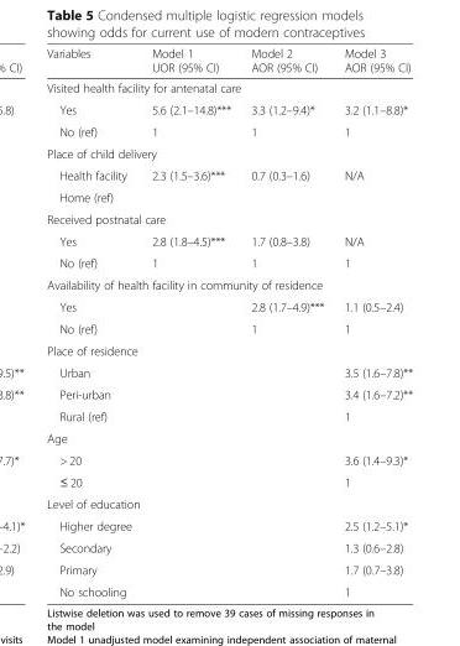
<table><thead><tr><td>Variables</td><td>Model 1 UOR (95% CI)</td><td>Model 2 AOR (95% CI)</td><td>Model 3 AOR (95% CI)</td></tr></thead><tbody><tr><td colspan="4">Visited health facility for antenatal care</td></tr><tr><td>Yes</td><td>5.6 (2.1–14.8)***</td><td>3.3 (1.2–9.4)*</td><td>3.2 (1.1–8.8)*</td></tr><tr><td>No (ref)</td><td>1</td><td>1</td><td>1</td></tr><tr><td colspan="4">Place of child delivery</td></tr><tr><td>Health facility</td><td>2.3 (1.5–3.6)***</td><td>0.7 (0.3–1.6)</td><td>N/A</td></tr><tr><td colspan="4">Home (ref)</td></tr><tr><td colspan="4">Received postnatal care</td></tr><tr><td>Yes</td><td>2.8 (1.8–4.5)***</td><td>1.7 (0.8–3.8)</td><td>N/A</td></tr><tr><td>No (ref)</td><td>1</td><td>1</td><td>1</td></tr><tr><td colspan="4">Availability of health facility in community of residence</td></tr><tr><td>Yes</td><td></td><td>2.8 (1.7–4.9)***</td><td>1.1 (0.5–2.4)</td></tr><tr><td>No (ref)</td><td></td><td>1</td><td>1</td></tr><tr><td colspan="4">Place of residence</td></tr><tr><td>Urban</td><td></td><td></td><td>3.5 (1.6–7.8)**</td></tr><tr><td>Peri-urban</td><td></td><td></td><td>3.4 (1.6–7.2)**</td></tr><tr><td>Rural (ref)</td><td></td><td></td><td>1</td></tr><tr><td colspan="4">Age</td></tr><tr><td>&gt; 20</td><td></td><td></td><td>3.6 (1.4–9.3)*</td></tr><tr><td>≤ 20</td><td></td><td></td><td>1</td></tr><tr><td colspan="4">Level of education</td></tr><tr><td>Higher degree</td><td></td><td></td><td>2.5 (1.2–5.1)*</td></tr><tr><td>Secondary</td><td></td><td></td><td>1.3 (0.6–2.8)</td></tr><tr><td>Primary</td><td></td><td></td><td>1.7 (0.7–3.8)</td></tr><tr><td>No schooling</td><td></td><td></td><td>1</td></tr></tbody></table>